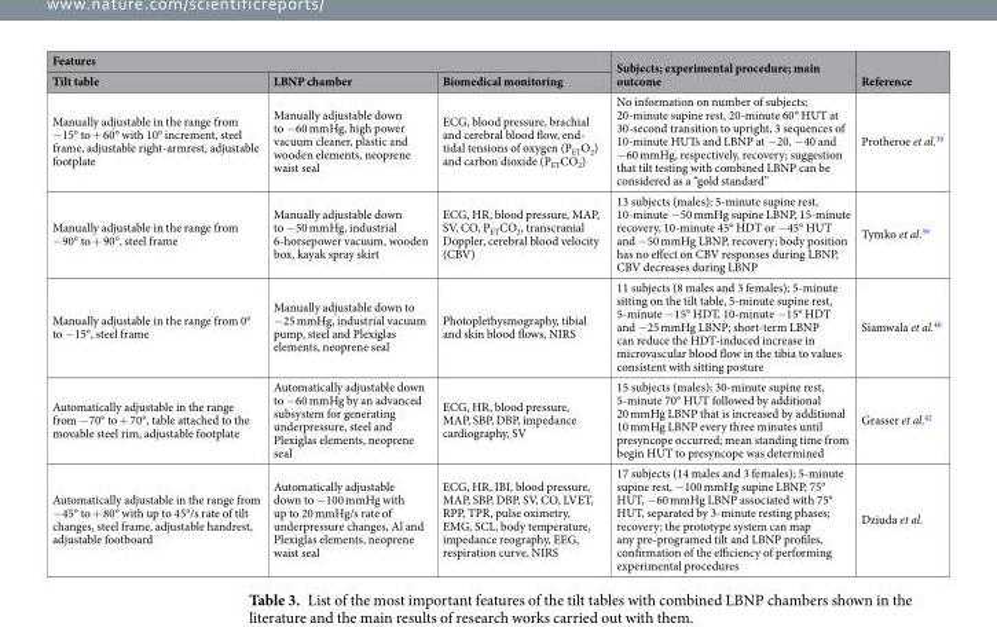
<table><thead><tr><td colspan="3">Features</td><td rowspan="2">Subjects; experimental procedure; main outcome</td><td rowspan="2">Reference</td></tr><tr><td>Tilt table</td><td>LBNP chamber</td><td>Biomedical monitoring</td></tr></thead><tbody><tr><td>Manually adjustable in the range from −15° to + 60° with 10° increment, steel frame, adjustable right-armrest, adjustable footplate</td><td>Manually adjustable down to −60 mmHg, high power vacuum cleaner, plastic and wooden elements, neoprene waist seal</td><td>ECG, blood pressure, brachial and cerebral blood flow, end- tidal tensions of oxygen (P<sub>ET</sub>O<sub>2</sub>) and carbon dioxide (P<sub>ET</sub>CO<sub>2</sub>)</td><td>No information on number of subjects; 20-minute supine rest, 20-minute 60° HUT at 30-second transition to upright, 3 sequences of 10-minute HUTs and LBNP at −20, −40 and −60 mmHg, respectively, recovery; suggestion that tilt testing with combined LBNP can be considered as a “gold standard”</td><td>Protheroe et al.<sup>36</sup></td></tr><tr><td>Manually adjustable in the range from −90° to + 90°, steel frame</td><td>Manually adjustable down to −50 mmHg, industrial 6-horsepower vacuum, wooden box, kayak spray skirt</td><td>ECG, HR, blood pressure, MAP, SV, CO, P<sub>ET</sub>CO<sub>2</sub>, transcranial Doppler, cerebral blood velocity (CBV)</td><td>13 subjects (males); 5-minute supine rest, 10-minute −50 mmHg supine LBNP, 15-minute recovery, 10-minute 45° HDT or −45° HUT and −50 mmHg LBNP, recovery; body position has no effect on CBV responses during LBNP, CBV decreases during LBNP</td><td>Tymko et al.<sup>39</sup></td></tr><tr><td>Manually adjustable in the range from 0° to −15°, steel frame</td><td>Manually adjustable down to −25 mmHg, industrial vacuum pump, steel and Plexiglas elements, neoprene seal</td><td>Photoplethysmography, tibial and skin blood flows, NIRS</td><td>11 subjects (8 males and 3 females); 5-minute sitting on the tilt table, 5-minute supine rest, 5-minute −15° HDT, 10-minute −15° HDT and −25 mmHg LBNP; short-term LBNP can reduce the HDT-induced increase in microvascular blood flow in the tibia to values consistent with sitting posture</td><td>Siamwala et al.<sup>40</sup></td></tr><tr><td>Automatically adjustable in the range from −70° to + 70°, table attached to the movable steel rim, adjustable footplate</td><td>Automatically adjustable down to −60 mmHg by an advanced subsystem for generating underpressure, steel and Plexiglas elements, neoprene seal</td><td>ECG, HR, blood pressure, MAP, SBP, DBP, impedance cardiography, SV</td><td>15 subjects (males); 30-minute supine rest, 5-minute 70° HUT followed by additional 20 mmHg LBNP that is increased by additional 10 mmHg LBNP every three minutes until presyncope occurred; mean standing time from begin HUT to presyncope was determined</td><td>Grasser et al.<sup>42</sup></td></tr><tr><td>Automatically adjustable in the range from −45° to + 80° with up to 45°/s rate of tilt changes, steel frame, adjustable handrest, adjustable footboard</td><td>Automatically adjustable down to −100 mmHg with up to 20 mmHg/s rate of underpressure changes, Al and Plexiglas elements, neoprene waist seal</td><td>ECG, HR, IBI, blood pressure, MAP, SBP, DBP, SV, CO, LVET, RPP, TPR, pulse oximetry, EMG, SCL, body temperature, impedance reography, EEG, respiration curve, NIRS</td><td>17 subjects (14 males and 3 females); 5-minute supine rest, −100 mmHg supine LBNP, 75° HUT, −60 mmHg LBNP associated with 75° HUT, separated by 3-minute resting phases; recovery; the prototype system can map any pre-programed tilt and LBNP profiles, confirmation of the efficiency of performing experimental procedures</td><td>Dziuda et al.</td></tr></tbody></table>